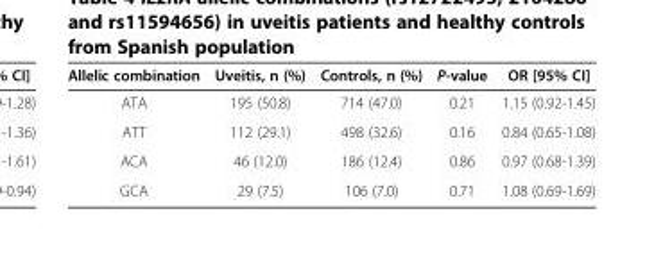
<table><thead><tr><td>Allelic combination</td><td>Uveitis, n (%)</td><td>Controls, n (%)</td><td>P-value</td><td>OR [95% CI]</td></tr></thead><tbody><tr><td>ATA</td><td>195 (50.8)</td><td>714 (47.0)</td><td>0.21</td><td>1.15 (0.92-1.45)</td></tr><tr><td>ATT</td><td>112 (29.1)</td><td>498 (32.6)</td><td>0.16</td><td>0.84 (0.65-1.08)</td></tr><tr><td>ACA</td><td>46 (12.0)</td><td>186 (12.4)</td><td>0.86</td><td>0.97 (0.68-1.39)</td></tr><tr><td>GCA</td><td>29 (7.5)</td><td>106 (7.0)</td><td>0.71</td><td>1.08 (0.69-1.69)</td></tr></tbody></table>